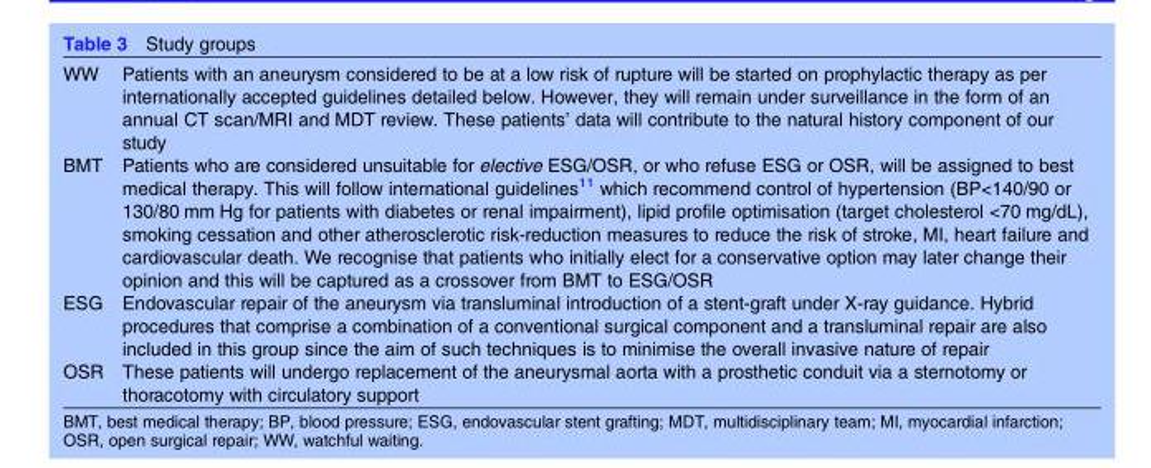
<table><tbody><tr><td>WW</td><td>Patients with an aneurysm considered to be at a low risk of rupture will be started on prophylactic therapy as per internationally accepted guidelines detailed below. However, they will remain under surveillance in the form of an annual CT scan/MRI and MDT review. These patients’ data will contribute to the natural history component of our study</td></tr><tr><td>BMT</td><td>Patients who are considered unsuitable for elective ESG/OSR, or who refuse ESG or OSR, will be assigned to best medical therapy. This will follow international guidelines<sup>11</sup> which recommend control of hypertension (BP&lt;140/90 or 130/80 mm Hg for patients with diabetes or renal impairment), lipid profile optimisation (target cholesterol &lt;70 mg/dL), smoking cessation and other atherosclerotic risk-reduction measures to reduce the risk of stroke, MI, heart failure and cardiovascular death. We recognise that patients who initially elect for a conservative option may later change their opinion and this will be captured as a crossover from BMT to ESG/OSR</td></tr><tr><td>ESG</td><td>Endovascular repair of the aneurysm via transluminal introduction of a stent-graft under X-ray guidance. Hybrid procedures that comprise a combination of a conventional surgical component and a transluminal repair are also included in this group since the aim of such techniques is to minimise the overall invasive nature of repair</td></tr><tr><td>OSR</td><td>These patients will undergo replacement of the aneurysmal aorta with a prosthetic conduit via a sternotomy or thoracotomy with circulatory support</td></tr></tbody></table>